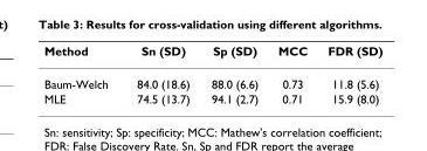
<table><thead><tr><td>Method</td><td>Sn (SD)</td><td>Sp (SD)</td><td>MCC</td><td>FDR (SD)</td></tr></thead><tbody><tr><td>Baum-Welch</td><td>84.0 (18.6)</td><td>88.0 (6.6)</td><td>0.73</td><td>11.8 (5.6)</td></tr><tr><td>MLE</td><td>74.5 (13.7)</td><td>94.1 (2.7)</td><td>0.71</td><td>15.9 (8.0)</td></tr></tbody></table>